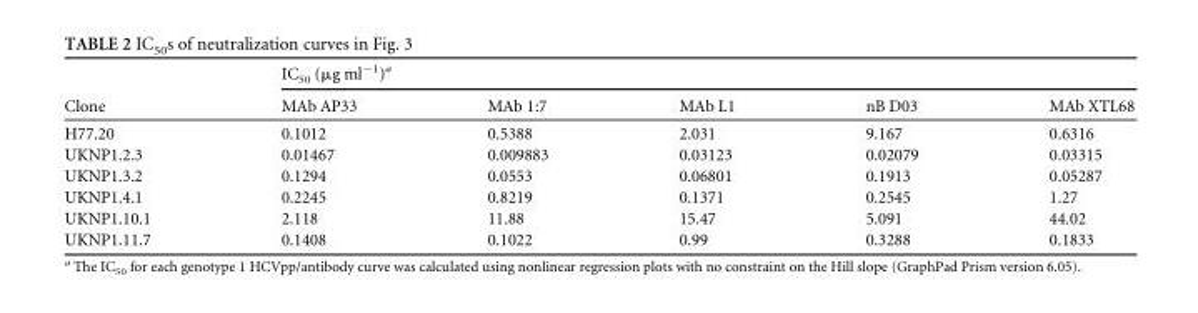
<table><thead><tr><td rowspan="2">Clone</td><td colspan="5">IC<sub>50</sub> (μg ml<sup>−1</sup>)<sup>a</sup></td></tr><tr><td>MAb AP33</td><td>MAb 1:7</td><td>MAb L1</td><td>nB D03</td><td>MAb XTL68</td></tr></thead><tbody><tr><td>H77.20</td><td>0.1012</td><td>0.5388</td><td>2.031</td><td>9.167</td><td>0.6316</td></tr><tr><td>UKNP1.2.3</td><td>0.01467</td><td>0.009883</td><td>0.03123</td><td>0.02079</td><td>0.03315</td></tr><tr><td>UKNP1.3.2</td><td>0.1294</td><td>0.0553</td><td>0.06801</td><td>0.1913</td><td>0.05287</td></tr><tr><td>UKNP1.4.1</td><td>0.2245</td><td>0.8219</td><td>0.1371</td><td>0.2545</td><td>1.27</td></tr><tr><td>UKNP1.10.1</td><td>2.118</td><td>11.88</td><td>15.47</td><td>5.091</td><td>44.02</td></tr><tr><td>UKNP1.11.7</td><td>0.1408</td><td>0.1022</td><td>0.99</td><td>0.3288</td><td>0.1833</td></tr></tbody></table>